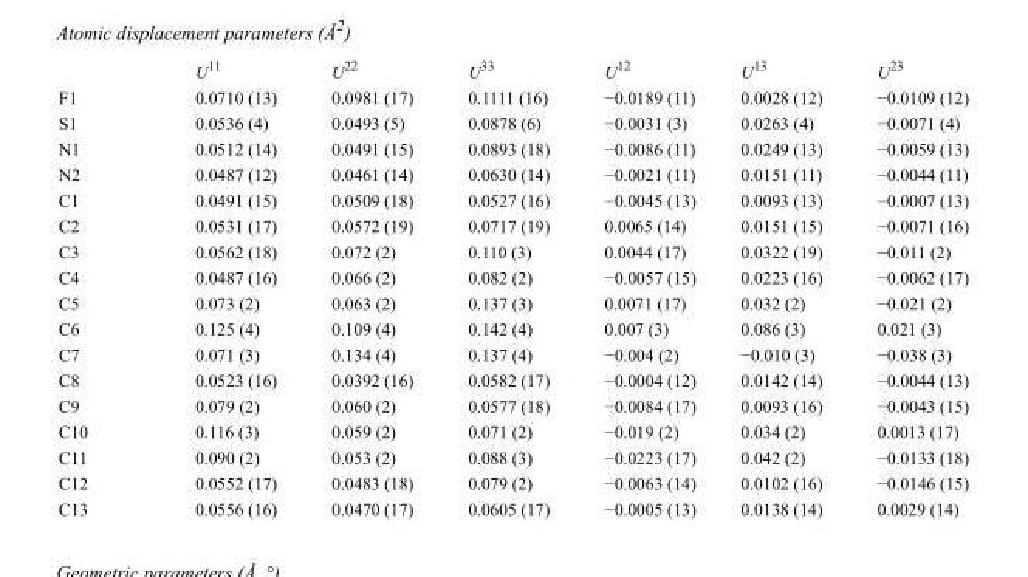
<table><thead><tr><td></td><td>U<sup>11</sup></td><td>U<sup>22</sup></td><td>U<sup>33</sup></td><td>U<sup>12</sup></td><td>U<sup>13</sup></td><td>U<sup>23</sup></td></tr></thead><tbody><tr><td>F1</td><td>0.0710 (13)</td><td>0.0981 (17)</td><td>0.1111 (16)</td><td>−0.0189 (11)</td><td>0.0028 (12)</td><td>−0.0109 (12)</td></tr><tr><td>S1</td><td>0.0536 (4)</td><td>0.0493 (5)</td><td>0.0878 (6)</td><td>−0.0031 (3)</td><td>0.0263 (4)</td><td>−0.0071 (4)</td></tr><tr><td>N1</td><td>0.0512 (14)</td><td>0.0491 (15)</td><td>0.0893 (18)</td><td>−0.0086 (11)</td><td>0.0249 (13)</td><td>−0.0059 (13)</td></tr><tr><td>N2</td><td>0.0487 (12)</td><td>0.0461 (14)</td><td>0.0630 (14)</td><td>−0.0021 (11)</td><td>0.0151 (11)</td><td>−0.0044 (11)</td></tr><tr><td>C1</td><td>0.0491 (15)</td><td>0.0509 (18)</td><td>0.0527 (16)</td><td>−0.0045 (13)</td><td>0.0093 (13)</td><td>−0.0007 (13)</td></tr><tr><td>C2</td><td>0.0531 (17)</td><td>0.0572 (19)</td><td>0.0717 (19)</td><td>0.0065 (14)</td><td>0.0151 (15)</td><td>−0.0071 (16)</td></tr><tr><td>C3</td><td>0.0562 (18)</td><td>0.072 (2)</td><td>0.110 (3)</td><td>0.0044 (17)</td><td>0.0322 (19)</td><td>−0.011 (2)</td></tr><tr><td>C4</td><td>0.0487 (16)</td><td>0.066 (2)</td><td>0.082 (2)</td><td>−0.0057 (15)</td><td>0.0223 (16)</td><td>−0.0062 (17)</td></tr><tr><td>C5</td><td>0.073 (2)</td><td>0.063 (2)</td><td>0.137 (3)</td><td>0.0071 (17)</td><td>0.032 (2)</td><td>−0.021 (2)</td></tr><tr><td>C6</td><td>0.125 (4)</td><td>0.109 (4)</td><td>0.142 (4)</td><td>0.007 (3)</td><td>0.086 (3)</td><td>0.021 (3)</td></tr><tr><td>C7</td><td>0.071 (3)</td><td>0.134 (4)</td><td>0.137 (4)</td><td>−0.004 (2)</td><td>−0.010 (3)</td><td>−0.038 (3)</td></tr><tr><td>C8</td><td>0.0523 (16)</td><td>0.0392 (16)</td><td>0.0582 (17)</td><td>−0.0004 (12)</td><td>0.0142 (14)</td><td>−0.0044 (13)</td></tr><tr><td>C9</td><td>0.079 (2)</td><td>0.060 (2)</td><td>0.0577 (18)</td><td>−0.0084 (17)</td><td>0.0093 (16)</td><td>−0.0043 (15)</td></tr><tr><td>C10</td><td>0.116 (3)</td><td>0.059 (2)</td><td>0.071 (2)</td><td>−0.019 (2)</td><td>0.034 (2)</td><td>0.0013 (17)</td></tr><tr><td>C11</td><td>0.090 (2)</td><td>0.053 (2)</td><td>0.088 (3)</td><td>−0.0223 (17)</td><td>0.042 (2)</td><td>−0.0133 (18)</td></tr><tr><td>C12</td><td>0.0552 (17)</td><td>0.0483 (18)</td><td>0.079 (2)</td><td>−0.0063 (14)</td><td>0.0102 (16)</td><td>−0.0146 (15)</td></tr><tr><td>C13</td><td>0.0556 (16)</td><td>0.0470 (17)</td><td>0.0605 (17)</td><td>−0.0005 (13)</td><td>0.0138 (14)</td><td>0.0029 (14)</td></tr></tbody></table>